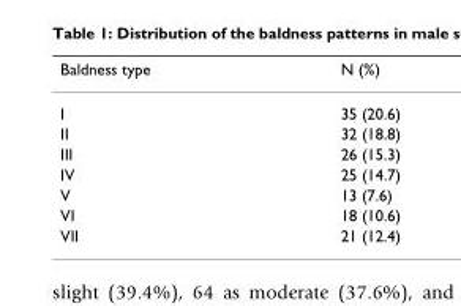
<table><thead><tr><td>Baldness type</td><td>N (%)</td></tr></thead><tbody><tr><td>I</td><td>35 (20.6)</td></tr><tr><td>II</td><td>32 (18.8)</td></tr><tr><td>III</td><td>26 (15.3)</td></tr><tr><td>IV</td><td>25 (14.7)</td></tr><tr><td>V</td><td>13 (7.6)</td></tr><tr><td>VI</td><td>18 (10.6)</td></tr><tr><td>VII</td><td>21 (12.4)</td></tr></tbody></table>